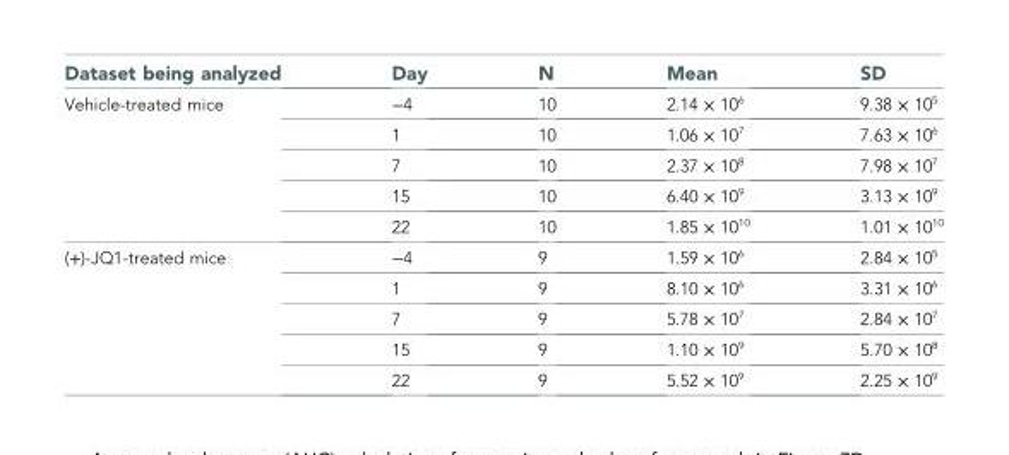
<table><thead><tr><td>Dataset being analyzed</td><td>Day</td><td>N</td><td>Mean</td><td>SD</td></tr></thead><tbody><tr><td rowspan="5">Vehicle-treated mice</td><td>−4</td><td>10</td><td>2.14 × 10<sup>6</sup></td><td>9.38 × 10<sup>5</sup></td></tr><tr><td>1</td><td>10</td><td>1.06 × 10<sup>7</sup></td><td>7.63 × 10<sup>6</sup></td></tr><tr><td>7</td><td>10</td><td>2.37 × 10<sup>8</sup></td><td>7.98 × 10<sup>7</sup></td></tr><tr><td>15</td><td>10</td><td>6.40 × 10<sup>9</sup></td><td>3.13 × 10<sup>9</sup></td></tr><tr><td>22</td><td>10</td><td>1.85 × 10<sup>10</sup></td><td>1.01 × 10<sup>10</sup></td></tr><tr><td rowspan="5">(+)-JQ1-treated mice</td><td>−4</td><td>9</td><td>1.59 × 10<sup>6</sup></td><td>2.84 × 10<sup>5</sup></td></tr><tr><td>1</td><td>9</td><td>8.10 × 10<sup>6</sup></td><td>3.31 × 10<sup>6</sup></td></tr><tr><td>7</td><td>9</td><td>5.78 × 10<sup>7</sup></td><td>2.84 × 10<sup>7</sup></td></tr><tr><td>15</td><td>9</td><td>1.10 × 10<sup>9</sup></td><td>5.70 × 10<sup>8</sup></td></tr><tr><td>22</td><td>9</td><td>5.52 × 10<sup>9</sup></td><td>2.25 × 10<sup>9</sup></td></tr></tbody></table>